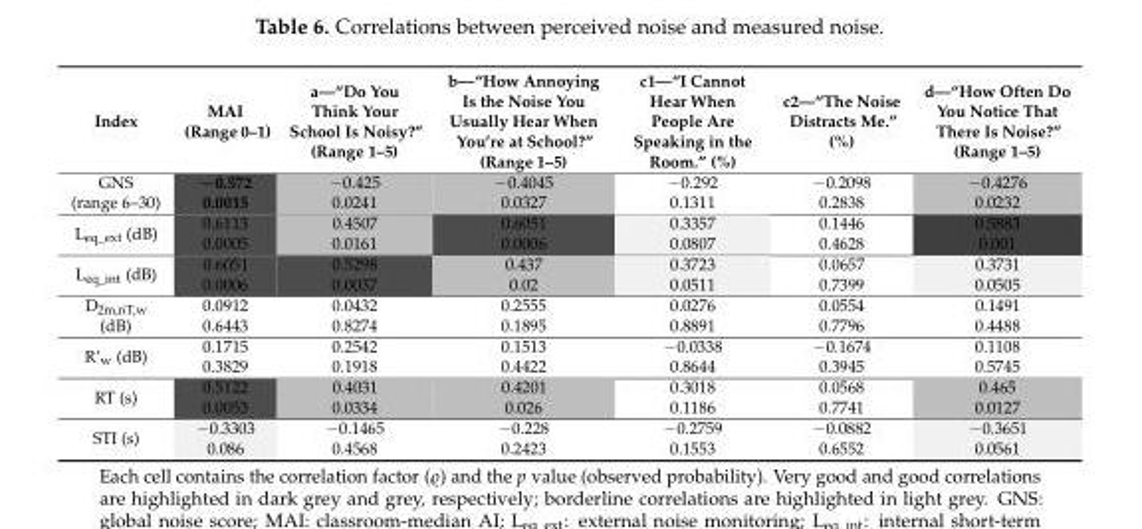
<table><thead><tr><td>Index</td><td>MAI (Range 0–1)</td><td>a—“Do You Think Your School Is Noisy?” (Range 1–5)</td><td>b—“How Annoying Is the Noise You Usually Hear When You’re at School?” (Range 1–5)</td><td>c1—“I Cannot Hear When People Are Speaking in the Room.” (%)</td><td>c2—“The Noise Distracts Me.” (%)</td><td>d—“How Often Do You Notice That There Is Noise?” (Range 1–5)</td></tr></thead><tbody><tr><td>GNS (range 6–30)</td><td>−0.572 0.0015</td><td>−0.425 0.0241</td><td>−0.4045 0.0327</td><td>−0.292 0.1311</td><td>−0.2098 0.2838</td><td>−0.4276 0.0232</td></tr><tr><td>L<sub>eq_ext</sub> (dB)</td><td>0.6113 0.0005</td><td>0.4507 0.0161</td><td>0.6051 0.0006</td><td>0.3357 0.0807</td><td>0.1446 0.4628</td><td>0.5883 0.001</td></tr><tr><td>L<sub>eq_int</sub> (dB)</td><td>0.6051 0.0006</td><td>0.5298 0.0037</td><td>0.437 0.02</td><td>0.3723 0.0511</td><td>0.0657 0.7399</td><td>0.3731 0.0505</td></tr><tr><td>D<sub>2m,nT,w</sub> (dB)</td><td>0.0912 0.6443</td><td>0.0432 0.8274</td><td>0.2555 0.1895</td><td>0.0276 0.8891</td><td>0.0554 0.7796</td><td>0.1491 0.4488</td></tr><tr><td>R’<sub>w</sub> (dB)</td><td>0.1715 0.3829</td><td>0.2542 0.1918</td><td>0.1513 0.4422</td><td>−0.0338 0.8644</td><td>−0.1674 0.3945</td><td>0.1108 0.5745</td></tr><tr><td>RT (s)</td><td>0.5122 0.0053</td><td>0.4031 0.0334</td><td>0.4201 0.026</td><td>0.3018 0.1186</td><td>0.0568 0.7741</td><td>0.465 0.0127</td></tr><tr><td>STI (s)</td><td>−0.3303 0.086</td><td>−0.1465 0.4568</td><td>−0.228 0.2423</td><td>−0.2759 0.1553</td><td>−0.0882 0.6552</td><td>−0.3651 0.0561</td></tr></tbody></table>